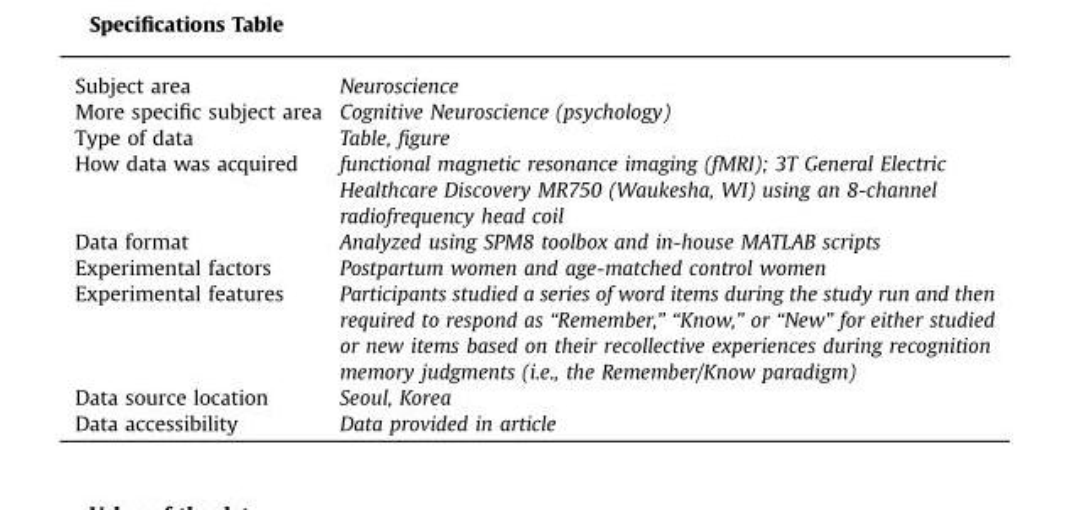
<table><tbody><tr><td>Subject area</td><td>Neuroscience</td></tr><tr><td>More specific subject area</td><td>Cognitive Neuroscience (psychology)</td></tr><tr><td>Type of data</td><td>Table, figure</td></tr><tr><td>How data was acquired</td><td>functional magnetic resonance imaging (fMRI); 3T General Electric Healthcare Discovery MR750 (Waukesha, WI) using an 8-channel radiofrequency head coil</td></tr><tr><td>Data format</td><td>Analyzed using SPM8 toolbox and in-house MATLAB scripts</td></tr><tr><td>Experimental factors</td><td>Postpartum women and age-matched control women</td></tr><tr><td>Experimental features</td><td>Participants studied a series of word items during the study run and then required to respond as “Remember,” “Know,” or “New” for either studied or new items based on their recollective experiences during recognition memory judgments (i.e., the Remember/Know paradigm)</td></tr><tr><td>Data source location</td><td>Seoul, Korea</td></tr><tr><td>Data accessibility</td><td>Data provided in article</td></tr></tbody></table>